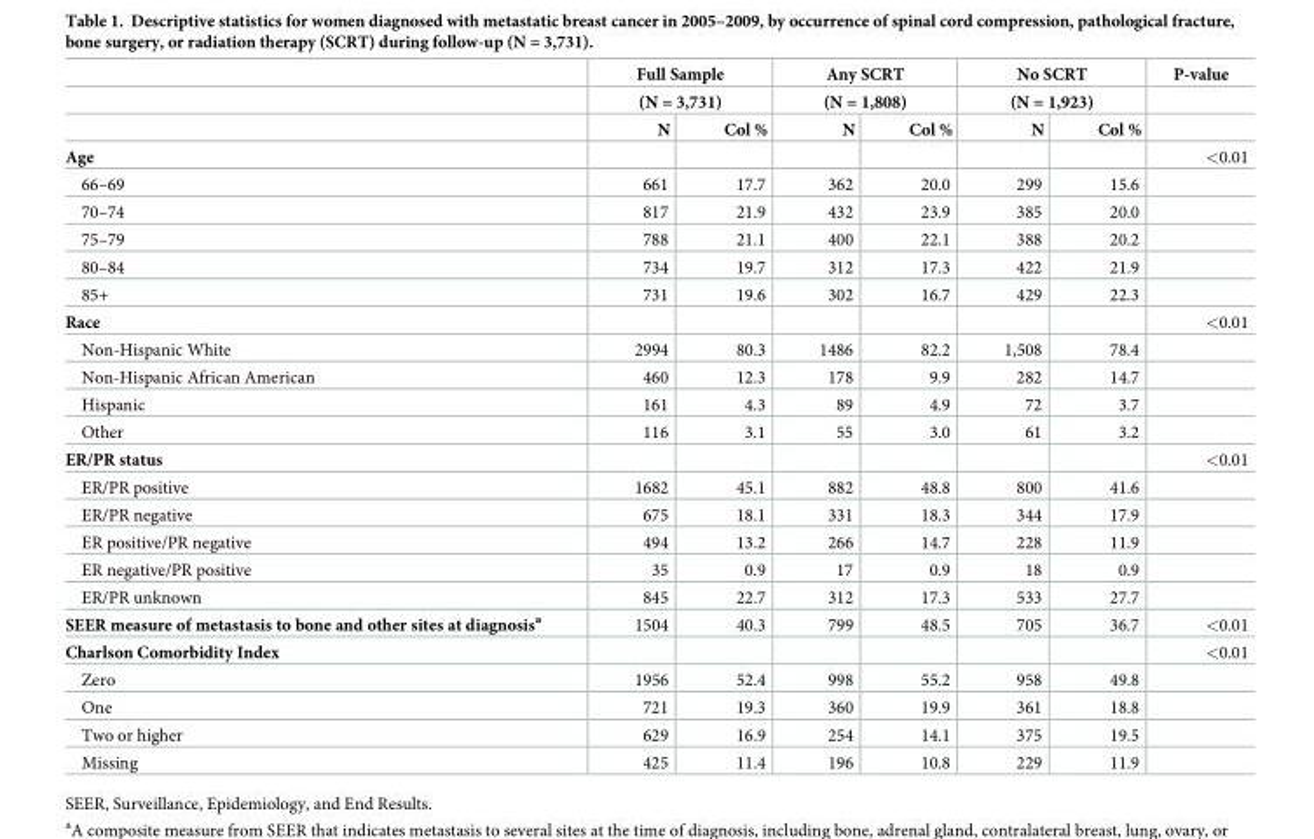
<table><thead><tr><td rowspan="3"></td><td rowspan="2" colspan="2">Full Sample (N = 3,731)</td><td rowspan="2" colspan="2">Any SCRT (N = 1,808)</td><td rowspan="2" colspan="2">No SCRT (N = 1,923)</td><td rowspan="3">P-value</td></tr><tr></tr><tr><td>N</td><td>Col %</td><td>N</td><td>Col %</td><td>N</td><td>Col %</td></tr></thead><tbody><tr><td>Age</td><td></td><td></td><td></td><td></td><td></td><td></td><td>&lt;0.01</td></tr><tr><td>66–69</td><td>661</td><td>17.7</td><td>362</td><td>20.0</td><td>299</td><td>15.6</td><td></td></tr><tr><td>70–74</td><td>817</td><td>21.9</td><td>432</td><td>23.9</td><td>385</td><td>20.0</td><td></td></tr><tr><td>75–79</td><td>788</td><td>21.1</td><td>400</td><td>22.1</td><td>388</td><td>20.2</td><td></td></tr><tr><td>80–84</td><td>734</td><td>19.7</td><td>312</td><td>17.3</td><td>422</td><td>21.9</td><td></td></tr><tr><td>85+</td><td>731</td><td>19.6</td><td>302</td><td>16.7</td><td>429</td><td>22.3</td><td></td></tr><tr><td>Race</td><td></td><td></td><td></td><td></td><td></td><td></td><td>&lt;0.01</td></tr><tr><td>Non-Hispanic White</td><td>2994</td><td>80.3</td><td>1486</td><td>82.2</td><td>1,508</td><td>78.4</td><td></td></tr><tr><td>Non-Hispanic African American</td><td>460</td><td>12.3</td><td>178</td><td>9.9</td><td>282</td><td>14.7</td><td></td></tr><tr><td>Hispanic</td><td>161</td><td>4.3</td><td>89</td><td>4.9</td><td>72</td><td>3.7</td><td></td></tr><tr><td>Other</td><td>116</td><td>3.1</td><td>55</td><td>3.0</td><td>61</td><td>3.2</td><td></td></tr><tr><td>ER/PR status</td><td></td><td></td><td></td><td></td><td></td><td></td><td>&lt;0.01</td></tr><tr><td>ER/PR positive</td><td>1682</td><td>45.1</td><td>882</td><td>48.8</td><td>800</td><td>41.6</td><td></td></tr><tr><td>ER/PR negative</td><td>675</td><td>18.1</td><td>331</td><td>18.3</td><td>344</td><td>17.9</td><td></td></tr><tr><td>ER positive/PR negative</td><td>494</td><td>13.2</td><td>266</td><td>14.7</td><td>228</td><td>11.9</td><td></td></tr><tr><td>ER negative/PR positive</td><td>35</td><td>0.9</td><td>17</td><td>0.9</td><td>18</td><td>0.9</td><td></td></tr><tr><td>ER/PR unknown</td><td>845</td><td>22.7</td><td>312</td><td>17.3</td><td>533</td><td>27.7</td><td></td></tr><tr><td>SEER measure of metastasis to bone and other sites at diagnosis<sup>a</sup></td><td>1504</td><td>40.3</td><td>799</td><td>48.5</td><td>705</td><td>36.7</td><td>&lt;0.01</td></tr><tr><td>Charlson Comorbidity Index</td><td></td><td></td><td></td><td></td><td></td><td></td><td>&lt;0.01</td></tr><tr><td>Zero</td><td>1956</td><td>52.4</td><td>998</td><td>55.2</td><td>958</td><td>49.8</td><td></td></tr><tr><td>One</td><td>721</td><td>19.3</td><td>360</td><td>19.9</td><td>361</td><td>18.8</td><td></td></tr><tr><td>Two or higher</td><td>629</td><td>16.9</td><td>254</td><td>14.1</td><td>375</td><td>19.5</td><td></td></tr><tr><td>Missing</td><td>425</td><td>11.4</td><td>196</td><td>10.8</td><td>229</td><td>11.9</td><td></td></tr></tbody></table>